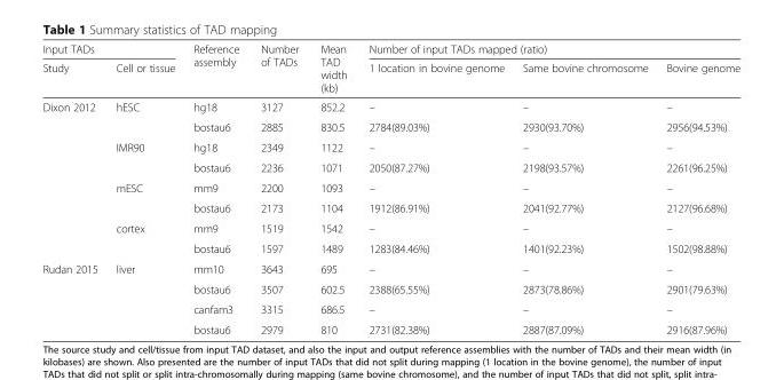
<table><thead><tr><td colspan="2">Input TADs</td><td rowspan="2">Reference assembly</td><td rowspan="2">Number of TADs</td><td rowspan="2">Mean TAD width (kb)</td><td colspan="3">Number of input TADs mapped (ratio)</td></tr><tr><td>Study</td><td>Cell or tissue</td><td>1 location in bovine genome</td><td>Same bovine chromosome</td><td>Bovine genome</td></tr></thead><tbody><tr><td rowspan="8">Dixon 2012</td><td rowspan="2">hESC</td><td>hg18</td><td>3127</td><td>852.2</td><td>–</td><td>–</td><td>–</td></tr><tr><td>bostau6</td><td>2885</td><td>830.5</td><td>2784(89.03%)</td><td>2930(93.70%)</td><td>2956(94.53%)</td></tr><tr><td rowspan="2">IMR90</td><td>hg18</td><td>2349</td><td>1122</td><td>–</td><td>–</td><td>–</td></tr><tr><td>bostau6</td><td>2236</td><td>1071</td><td>2050(87.27%)</td><td>2198(93.57%)</td><td>2261(96.25%)</td></tr><tr><td rowspan="2">mESC</td><td>mm9</td><td>2200</td><td>1093</td><td>–</td><td>–</td><td>–</td></tr><tr><td>bostau6</td><td>2173</td><td>1104</td><td>1912(86.91%)</td><td>2041(92.77%)</td><td>2127(96.68%)</td></tr><tr><td rowspan="2">cortex</td><td>mm9</td><td>1519</td><td>1542</td><td>–</td><td>–</td><td>–</td></tr><tr><td>bostau6</td><td>1597</td><td>1489</td><td>1283(84.46%)</td><td>1401(92.23%)</td><td>1502(98.88%)</td></tr><tr><td rowspan="4">Rudan 2015</td><td rowspan="4">liver</td><td>mm10</td><td>3643</td><td>695</td><td>–</td><td>–</td><td>–</td></tr><tr><td>bostau6</td><td>3507</td><td>602.5</td><td>2388(65.55%)</td><td>2873(78.86%)</td><td>2901(79.63%)</td></tr><tr><td>canfam3</td><td>3315</td><td>686.5</td><td>–</td><td>–</td><td>–</td></tr><tr><td>bostau6</td><td>2979</td><td>810</td><td>2731(82.38%)</td><td>2887(87.09%)</td><td>2916(87.96%)</td></tr></tbody></table>